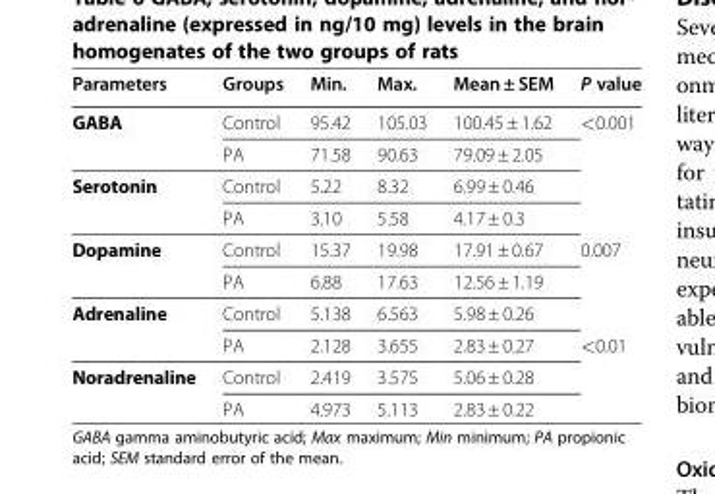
<table><thead><tr><td>Parameters</td><td>Groups</td><td>Min.</td><td>Max.</td><td>Mean ± SEM</td><td>P value</td></tr></thead><tbody><tr><td rowspan="2">GABA</td><td>Control</td><td>95.42</td><td>105.03</td><td>100.45 ± 1.62</td><td>&lt;0.001</td></tr><tr><td>PA</td><td>71.58</td><td>90.63</td><td>79.09 ± 2.05</td><td></td></tr><tr><td rowspan="2">Serotonin</td><td>Control</td><td>5.22</td><td>8.32</td><td>6.99 ± 0.46</td><td></td></tr><tr><td>PA</td><td>3.10</td><td>5.58</td><td>4.17 ± 0.3</td><td></td></tr><tr><td rowspan="2">Dopamine</td><td>Control</td><td>15.37</td><td>19.98</td><td>17.91 ± 0.67</td><td>0.007</td></tr><tr><td>PA</td><td>6.88</td><td>17.63</td><td>12.56 ± 1.19</td><td></td></tr><tr><td rowspan="2">Adrenaline</td><td>Control</td><td>5.138</td><td>6.563</td><td>5.98 ± 0.26</td><td></td></tr><tr><td>PA</td><td>2.128</td><td>3.655</td><td>2.83 ± 0.27</td><td>&lt;0.01</td></tr><tr><td rowspan="2">Noradrenaline</td><td>Control</td><td>2.419</td><td>3.575</td><td>5.06 ± 0.28</td><td></td></tr><tr><td>PA</td><td>4.973</td><td>5.113</td><td>2.83 ± 0.22</td><td></td></tr></tbody></table>